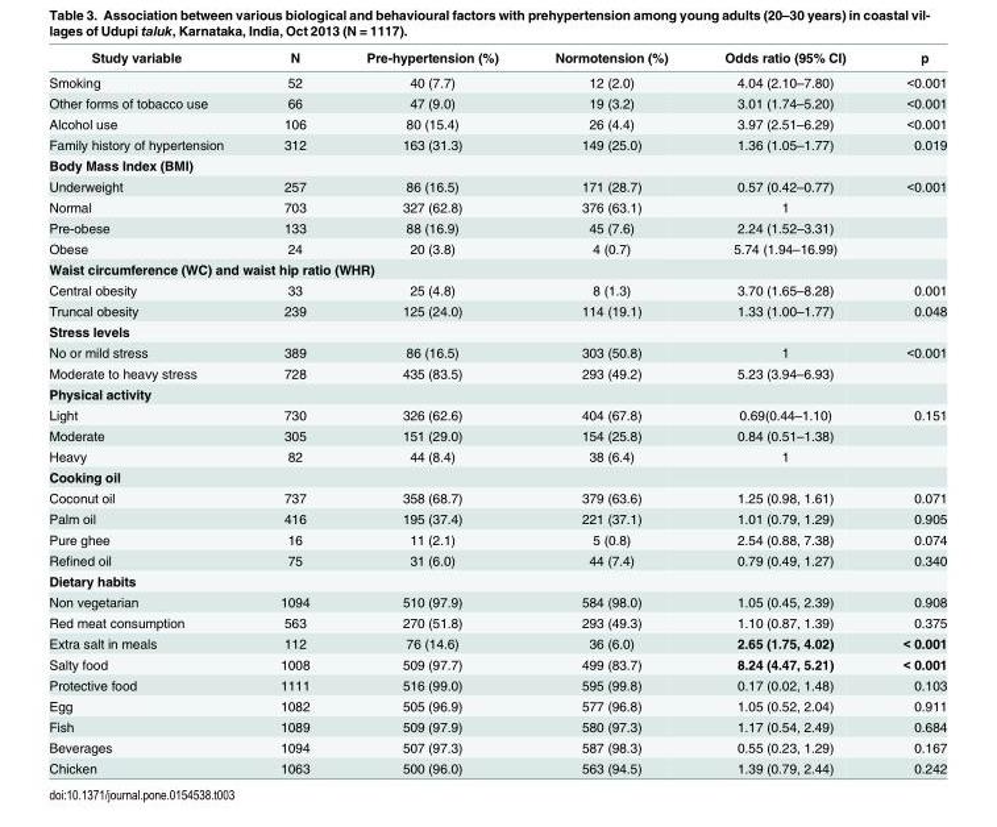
<table><thead><tr><td>Study variable</td><td>N</td><td>Pre-hypertension (%)</td><td>Normotension (%)</td><td>Odds ratio (95% CI)</td><td>p</td></tr></thead><tbody><tr><td>Smoking</td><td>52</td><td>40 (7.7)</td><td>12 (2.0)</td><td>4.04 (2.10–7.80)</td><td>&lt;0.001</td></tr><tr><td>Other forms of tobacco use</td><td>66</td><td>47 (9.0)</td><td>19 (3.2)</td><td>3.01 (1.74–5.20)</td><td>&lt;0.001</td></tr><tr><td>Alcohol use</td><td>106</td><td>80 (15.4)</td><td>26 (4.4)</td><td>3.97 (2.51–6.29)</td><td>&lt;0.001</td></tr><tr><td>Family history of hypertension</td><td>312</td><td>163 (31.3)</td><td>149 (25.0)</td><td>1.36 (1.05–1.77)</td><td>0.019</td></tr><tr><td colspan="6">Body Mass Index (BMI)</td></tr><tr><td>Underweight</td><td>257</td><td>86 (16.5)</td><td>171 (28.7)</td><td>0.57 (0.42–0.77)</td><td>&lt;0.001</td></tr><tr><td>Normal</td><td>703</td><td>327 (62.8)</td><td>376 (63.1)</td><td>1</td><td></td></tr><tr><td>Pre-obese</td><td>133</td><td>88 (16.9)</td><td>45 (7.6)</td><td>2.24 (1.52–3.31)</td><td></td></tr><tr><td>Obese</td><td>24</td><td>20 (3.8)</td><td>4 (0.7)</td><td>5.74 (1.94–16.99)</td><td></td></tr><tr><td colspan="6">Waist circumference (WC) and waist hip ratio (WHR)</td></tr><tr><td>Central obesity</td><td>33</td><td>25 (4.8)</td><td>8 (1.3)</td><td>3.70 (1.65–8.28)</td><td>0.001</td></tr><tr><td>Truncal obesity</td><td>239</td><td>125 (24.0)</td><td>114 (19.1)</td><td>1.33 (1.00–1.77)</td><td>0.048</td></tr><tr><td colspan="6">Stress levels</td></tr><tr><td>No or mild stress</td><td>389</td><td>86 (16.5)</td><td>303 (50.8)</td><td>1</td><td>&lt;0.001</td></tr><tr><td>Moderate to heavy stress</td><td>728</td><td>435 (83.5)</td><td>293 (49.2)</td><td>5.23 (3.94–6.93)</td><td></td></tr><tr><td colspan="6">Physical activity</td></tr><tr><td>Light</td><td>730</td><td>326 (62.6)</td><td>404 (67.8)</td><td>0.69(0.44–1.10)</td><td>0.151</td></tr><tr><td>Moderate</td><td>305</td><td>151 (29.0)</td><td>154 (25.8)</td><td>0.84 (0.51–1.38)</td><td></td></tr><tr><td>Heavy</td><td>82</td><td>44 (8.4)</td><td>38 (6.4)</td><td>1</td><td></td></tr><tr><td colspan="6">Cooking oil</td></tr><tr><td>Coconut oil</td><td>737</td><td>358 (68.7)</td><td>379 (63.6)</td><td>1.25 (0.98, 1.61)</td><td>0.071</td></tr><tr><td>Palm oil</td><td>416</td><td>195 (37.4)</td><td>221 (37.1)</td><td>1.01 (0.79, 1.29)</td><td>0.905</td></tr><tr><td>Pure ghee</td><td>16</td><td>11 (2.1)</td><td>5 (0.8)</td><td>2.54 (0.88, 7.38)</td><td>0.074</td></tr><tr><td>Refined oil</td><td>75</td><td>31 (6.0)</td><td>44 (7.4)</td><td>0.79 (0.49, 1.27)</td><td>0.340</td></tr><tr><td colspan="6">Dietary habits</td></tr><tr><td>Non vegetarian</td><td>1094</td><td>510 (97.9)</td><td>584 (98.0)</td><td>1.05 (0.45, 2.39)</td><td>0.908</td></tr><tr><td>Red meat consumption</td><td>563</td><td>270 (51.8)</td><td>293 (49.3)</td><td>1.10 (0.87, 1.39)</td><td>0.375</td></tr><tr><td>Extra salt in meals</td><td>112</td><td>76 (14.6)</td><td>36 (6.0)</td><td>2.65 (1.75, 4.02)</td><td>&lt; 0.001</td></tr><tr><td>Salty food</td><td>1008</td><td>509 (97.7)</td><td>499 (83.7)</td><td>8.24 (4.47, 5.21)</td><td>&lt; 0.001</td></tr><tr><td>Protective food</td><td>1111</td><td>516 (99.0)</td><td>595 (99.8)</td><td>0.17 (0.02, 1.48)</td><td>0.103</td></tr><tr><td>Egg</td><td>1082</td><td>505 (96.9)</td><td>577 (96.8)</td><td>1.05 (0.52, 2.04)</td><td>0.911</td></tr><tr><td>Fish</td><td>1089</td><td>509 (97.9)</td><td>580 (97.3)</td><td>1.17 (0.54, 2.49)</td><td>0.684</td></tr><tr><td>Beverages</td><td>1094</td><td>507 (97.3)</td><td>587 (98.3)</td><td>0.55 (0.23, 1.29)</td><td>0.167</td></tr><tr><td>Chicken</td><td>1063</td><td>500 (96.0)</td><td>563 (94.5)</td><td>1.39 (0.79, 2.44)</td><td>0.242</td></tr></tbody></table>